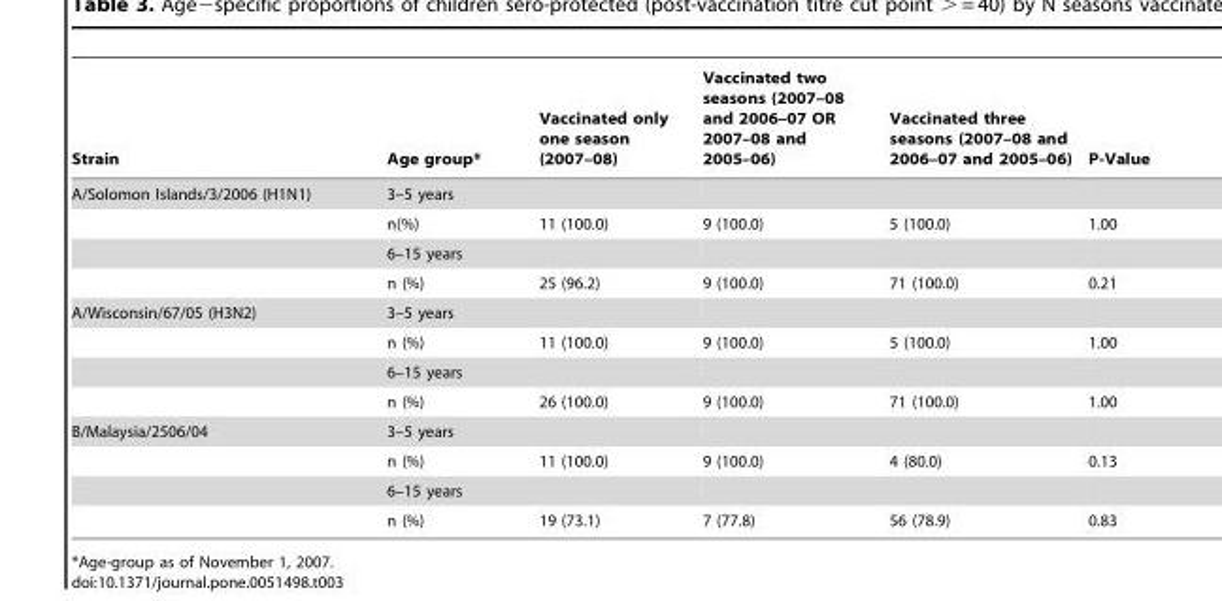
<table><thead><tr><td>Strain</td><td>Age group*</td><td>Vaccinated only one season (2007–08)</td><td>Vaccinated two seasons (2007–08 and 2006–07 OR 2007–08 and 2005–06)</td><td>Vaccinated three seasons (2007–08 and 2006–07 and 2005–06)</td><td>P-Value</td></tr></thead><tbody><tr><td rowspan="4">A/Solomon Islands/3/2006 (H1N1)</td><td>3–5 years</td><td></td><td></td><td></td><td></td></tr><tr><td>n(%)</td><td>11 (100.0)</td><td>9 (100.0)</td><td>5 (100.0)</td><td>1.00</td></tr><tr><td>6–15 years</td><td></td><td></td><td></td><td></td></tr><tr><td>n (%)</td><td>25 (96.2)</td><td>9 (100.0)</td><td>71 (100.0)</td><td>0.21</td></tr><tr><td rowspan="4">A/Wisconsin/67/05 (H3N2)</td><td>3–5 years</td><td></td><td></td><td></td><td></td></tr><tr><td>n (%)</td><td>11 (100.0)</td><td>9 (100.0)</td><td>5 (100.0)</td><td>1.00</td></tr><tr><td>6–15 years</td><td></td><td></td><td></td><td></td></tr><tr><td>n (%)</td><td>26 (100.0)</td><td>9 (100.0)</td><td>71 (100.0)</td><td>1.00</td></tr><tr><td rowspan="4">B/Malaysia/2506/04</td><td>3–5 years</td><td></td><td></td><td></td><td></td></tr><tr><td>n (%)</td><td>11 (100.0)</td><td>9 (100.0)</td><td>4 (80.0)</td><td>0.13</td></tr><tr><td>6–15 years</td><td></td><td></td><td></td><td></td></tr><tr><td>n (%)</td><td>19 (73.1)</td><td>7 (77.8)</td><td>56 (78.9)</td><td>0.83</td></tr></tbody></table>